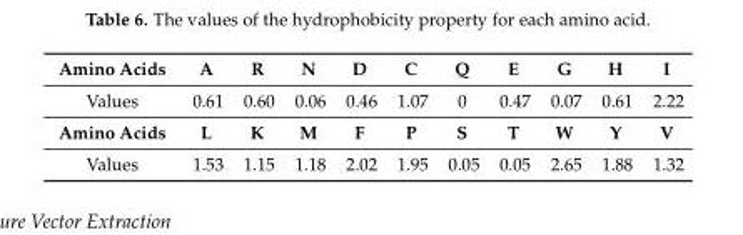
<table><thead><tr><td>Amino Acids</td><td>A</td><td>R</td><td>N</td><td>D</td><td>C</td><td>Q</td><td>E</td><td>G</td><td>H</td><td>I</td></tr></thead><tbody><tr><td>Values</td><td>0.61</td><td>0.60</td><td>0.06</td><td>0.46</td><td>1.07</td><td>0</td><td>0.47</td><td>0.07</td><td>0.61</td><td>2.22</td></tr><tr><td>Amino Acids</td><td>L</td><td>K</td><td>M</td><td>F</td><td>P</td><td>S</td><td>T</td><td>W</td><td>Y</td><td>V</td></tr><tr><td>Values</td><td>1.53</td><td>1.15</td><td>1.18</td><td>2.02</td><td>1.95</td><td>0.05</td><td>0.05</td><td>2.65</td><td>1.88</td><td>1.32</td></tr></tbody></table>